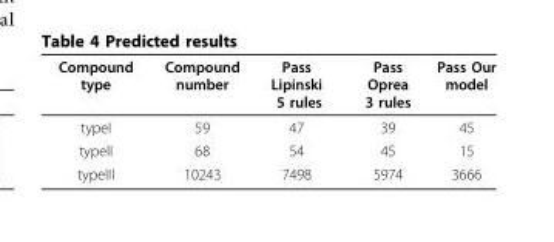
<table><thead><tr><td>Compound type</td><td>Compound number</td><td>Pass Lipinski 5 rules</td><td>Pass Oprea 3 rules</td><td>Pass Our model</td></tr></thead><tbody><tr><td>typeI</td><td>59</td><td>47</td><td>39</td><td>45</td></tr><tr><td>typeII</td><td>68</td><td>54</td><td>45</td><td>15</td></tr><tr><td>typeIII</td><td>10243</td><td>7498</td><td>5974</td><td>3666</td></tr></tbody></table>